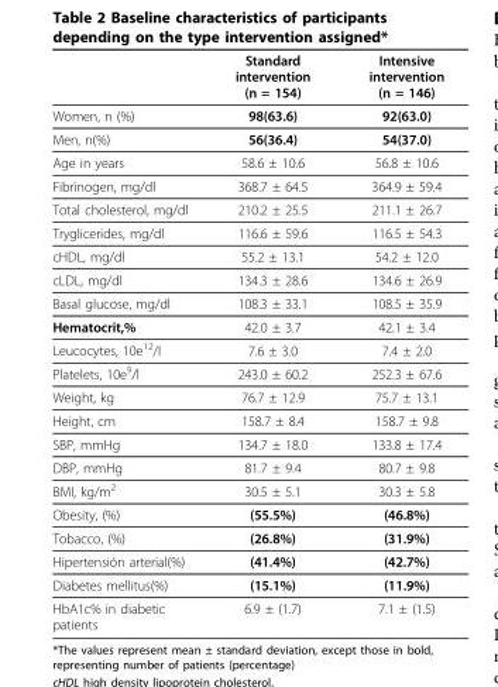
<table><thead><tr><td></td><td>Standard intervention (n = 154)</td><td>Intensive intervention (n = 146)</td></tr></thead><tbody><tr><td>Women, n (%)</td><td>98(63.6)</td><td>92(63.0)</td></tr><tr><td>Men, n(%)</td><td>56(36.4)</td><td>54(37.0)</td></tr><tr><td>Age in years</td><td>58.6 ± 10.6</td><td>56.8 ± 10.6</td></tr><tr><td>Fibrinogen, mg/dl</td><td>368.7 ± 64.5</td><td>364.9 ± 59.4</td></tr><tr><td>Total cholesterol, mg/dl</td><td>210.2 ± 25.5</td><td>211.1 ± 26.7</td></tr><tr><td>Tryglicerides, mg/dl</td><td>116.6 ± 59.6</td><td>116.5 ± 54.3</td></tr><tr><td>cHDL, mg/dl</td><td>55.2 ± 13.1</td><td>54.2 ± 12.0</td></tr><tr><td>cLDL, mg/dl</td><td>134.3 ± 28.6</td><td>134.6 ± 26.9</td></tr><tr><td>Basal glucose, mg/dl</td><td>108.3 ± 33.1</td><td>108.5 ± 35.9</td></tr><tr><td>Hematocrit,%</td><td>42.0 ± 3.7</td><td>42.1 ± 3.4</td></tr><tr><td>Leucocytes, 10e<sup>12</sup>/l</td><td>7.6 ± 3.0</td><td>7.4 ± 2.0</td></tr><tr><td>Platelets, 10e<sup>9</sup>/l</td><td>243.0 ± 60.2</td><td>252.3 ± 67.6</td></tr><tr><td>Weight, kg</td><td>76.7 ± 12.9</td><td>75.7 ± 13.1</td></tr><tr><td>Height, cm</td><td>158.7 ± 8.4</td><td>158.7 ± 9.8</td></tr><tr><td>SBP, mmHg</td><td>134.7 ± 18.0</td><td>133.8 ± 17.4</td></tr><tr><td>DBP, mmHg</td><td>81.7 ± 9.4</td><td>80.7 ± 9.8</td></tr><tr><td>BMI, kg/m<sup>2</sup></td><td>30.5 ± 5.1</td><td>30.3 ± 5.8</td></tr><tr><td>Obesity, (%)</td><td>(55.5%)</td><td>(46.8%)</td></tr><tr><td>Tobacco, (%)</td><td>(26.8%)</td><td>(31.9%)</td></tr><tr><td>Hipertensión arterial(%)</td><td>(41.4%)</td><td>(42.7%)</td></tr><tr><td>Diabetes mellitus(%)</td><td>(15.1%)</td><td>(11.9%)</td></tr><tr><td>HbA1c% in diabetic patients</td><td>6.9 ± (1.7)</td><td>7.1 ± (1.5)</td></tr></tbody></table>